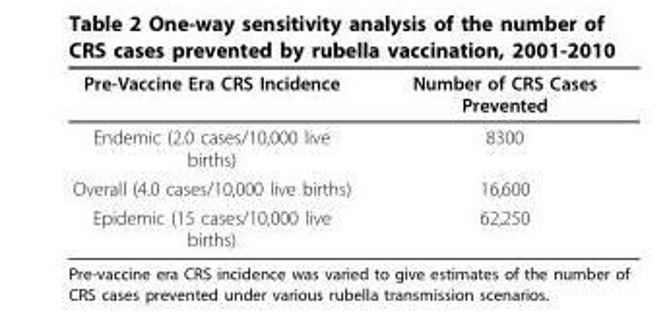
<table><thead><tr><td>Pre-Vaccine Era CRS Incidence</td><td>Number of CRS Cases Prevented</td></tr></thead><tbody><tr><td>Endemic (2.0 cases/10,000 live births)</td><td>8300</td></tr><tr><td>Overall (4.0 cases/10,000 live births)</td><td>16,600</td></tr><tr><td>Epidemic (15 cases/10,000 live births)</td><td>62,250</td></tr></tbody></table>